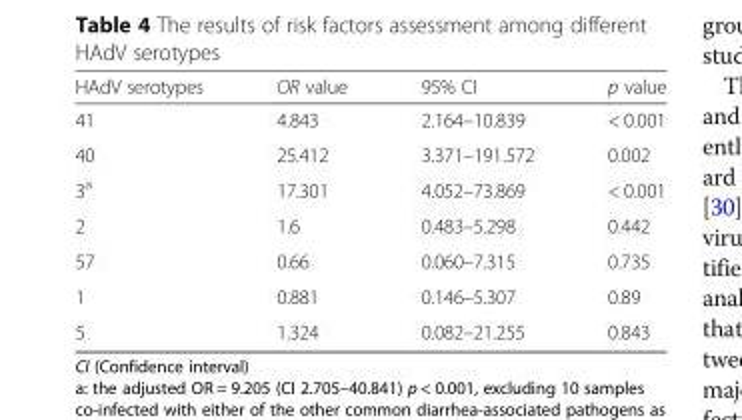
<table><thead><tr><td>HAdV serotypes</td><td>OR value</td><td>95% CI</td><td>p value</td></tr></thead><tbody><tr><td>41</td><td>4.843</td><td>2.164–10.839</td><td>&lt; 0.001</td></tr><tr><td>40</td><td>25.412</td><td>3.371–191.572</td><td>0.002</td></tr><tr><td>3<sup>a</sup></td><td>17.301</td><td>4.052–73.869</td><td>&lt; 0.001</td></tr><tr><td>2</td><td>1.6</td><td>0.483–5.298</td><td>0.442</td></tr><tr><td>57</td><td>0.66</td><td>0.060–7.315</td><td>0.735</td></tr><tr><td>1</td><td>0.881</td><td>0.146–5.307</td><td>0.89</td></tr><tr><td>5</td><td>1.324</td><td>0.082–21.255</td><td>0.843</td></tr></tbody></table>